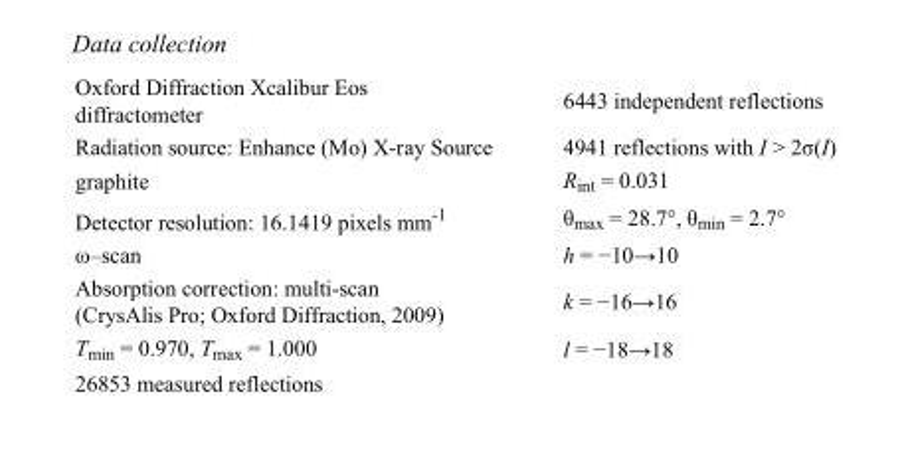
<table><tbody><tr><td>Oxford Diffraction Xcalibur Eos diffractometer</td><td>6443 independent reflections</td></tr><tr><td>Radiation source: Enhance (Mo) X-ray Source</td><td>4941 reflections with I &gt; 2σ(I)</td></tr><tr><td>graphite</td><td>R<sub>int</sub> = 0.031</td></tr><tr><td>Detector resolution: 16.1419 pixels mm<sup>-1</sup></td><td>θ<sub>max</sub> = 28.7°, θ<sub>min</sub> = 2.7°</td></tr><tr><td>ω–scan</td><td>h = −10→10</td></tr><tr><td>Absorption correction: multi-scan (CrysAlis Pro; Oxford Diffraction, 2009)</td><td>k = −16→16</td></tr><tr><td>T<sub>min</sub> = 0.970, T<sub>max</sub> = 1.000</td><td>l = −18→18</td></tr><tr><td>26853 measured reflections</td><td></td></tr></tbody></table>